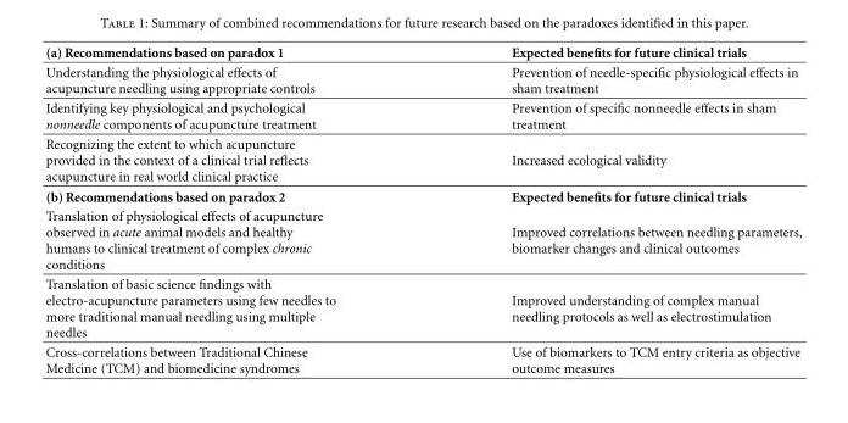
<table><thead><tr><td>(a) Recommendations based on paradox 1</td><td>Expected benefits for future clinical trials</td></tr></thead><tbody><tr><td>Understanding the physiological effects of acupuncture needling using appropriate controls</td><td>Prevention of needle-specific physiological effects in sham treatment</td></tr><tr><td>Identifying key physiological and psychological nonneedle components of acupuncture treatment</td><td>Prevention of specific nonneedle effects in sham treatment</td></tr><tr><td>Recognizing the extent to which acupuncture provided in the context of a clinical trial reflects acupuncture in real world clinical practice</td><td>Increased ecological validity</td></tr><tr><td>(b) Recommendations based on paradox 2</td><td>Expected benefits for future clinical trials</td></tr><tr><td>Translation of physiological effects of acupuncture observed in acute animal models and healthy humans to clinical treatment of complex chronic conditions</td><td>Improved correlations between needling parameters, biomarker changes and clinical outcomes</td></tr><tr><td>Translation of basic science findings with electro-acupuncture parameters using few needles to more traditional manual needling using multiple needles</td><td>Improved understanding of complex manual needling protocols as well as electrostimulation</td></tr><tr><td>Cross-correlations between Traditional Chinese Medicine (TCM) and biomedicine syndromes</td><td>Use of biomarkers to TCM entry criteria as objective outcome measures</td></tr></tbody></table>